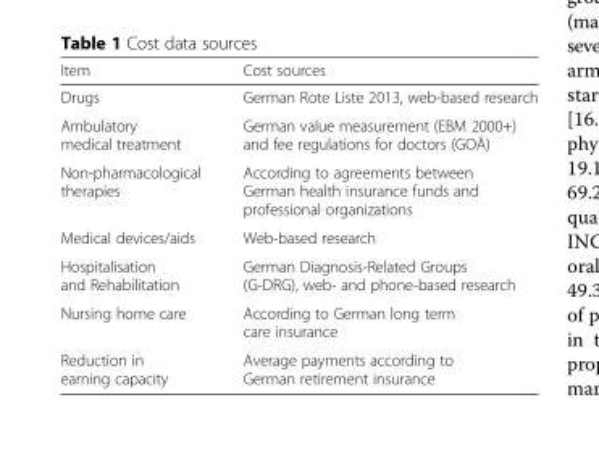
<table><thead><tr><td>Item</td><td>Cost sources</td></tr></thead><tbody><tr><td>Drugs</td><td>German Rote Liste 2013, web-based research</td></tr><tr><td>Ambulatory medical treatment</td><td>German value measurement (EBM 2000+) and fee regulations for doctors (GOÄ)</td></tr><tr><td>Non-pharmacological therapies</td><td>According to agreements between German health insurance funds and professional organizations</td></tr><tr><td>Medical devices/aids</td><td>Web-based research</td></tr><tr><td>Hospitalisation and Rehabilitation</td><td>German Diagnosis-Related Groups (G-DRG), web- and phone-based research</td></tr><tr><td>Nursing home care</td><td>According to German long term care insurance</td></tr><tr><td>Reduction in earning capacity</td><td>Average payments according to German retirement insurance</td></tr></tbody></table>